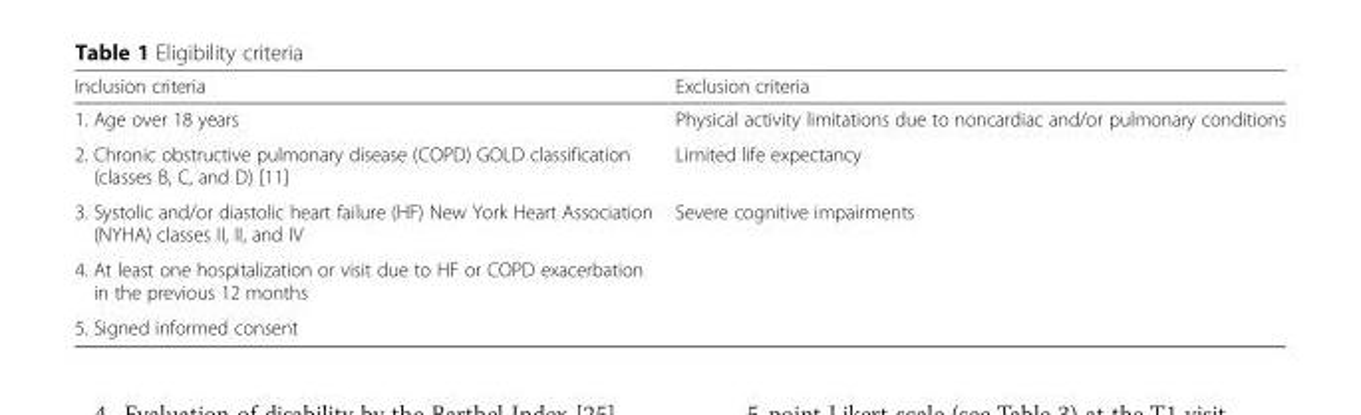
<table><thead><tr><td>Inclusion criteria</td><td>Exclusion criteria</td></tr></thead><tbody><tr><td>1. Age over 18 years</td><td>Physical activity limitations due to noncardiac and/or pulmonary conditions</td></tr><tr><td>2. Chronic obstructive pulmonary disease (COPD) GOLD classification (classes B, C, and D) [11]</td><td>Limited life expectancy</td></tr><tr><td>3. Systolic and/or diastolic heart failure (HF) New York Heart Association (NYHA) classes II, II, and IV</td><td rowspan="3">Severe cognitive impairments</td></tr><tr><td>4. At least one hospitalization or visit due to HF or COPD exacerbation in the previous 12 months</td></tr><tr><td>5. Signed informed consent</td></tr></tbody></table>